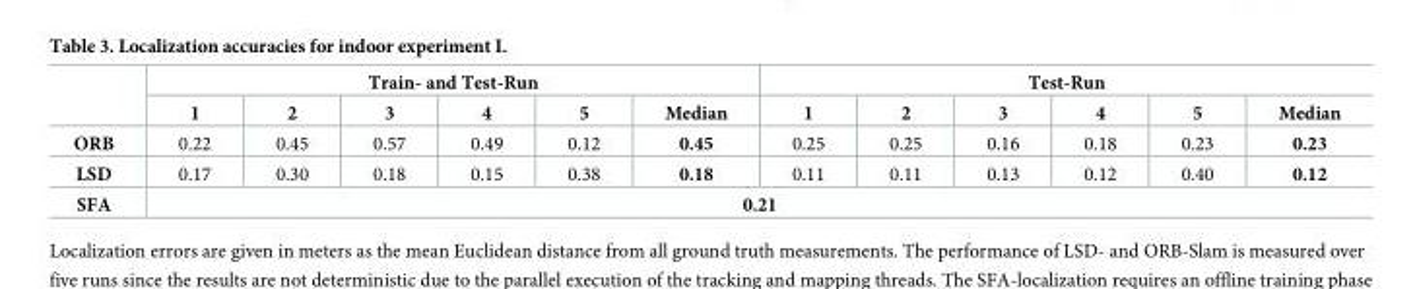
<table><thead><tr><td rowspan="2"></td><td colspan="6">Train- and Test-Run</td><td colspan="6">Test-Run</td></tr><tr><td>1</td><td>2</td><td>3</td><td>4</td><td>5</td><td>Median</td><td>1</td><td>2</td><td>3</td><td>4</td><td>5</td><td>Median</td></tr></thead><tbody><tr><td>ORB</td><td>0.22</td><td>0.45</td><td>0.57</td><td>0.49</td><td>0.12</td><td>0.45</td><td>0.25</td><td>0.25</td><td>0.16</td><td>0.18</td><td>0.23</td><td>0.23</td></tr><tr><td>LSD</td><td>0.17</td><td>0.30</td><td>0.18</td><td>0.15</td><td>0.38</td><td>0.18</td><td>0.11</td><td>0.11</td><td>0.13</td><td>0.12</td><td>0.40</td><td>0.12</td></tr><tr><td>SFA</td><td colspan="12">0.21</td></tr></tbody></table>